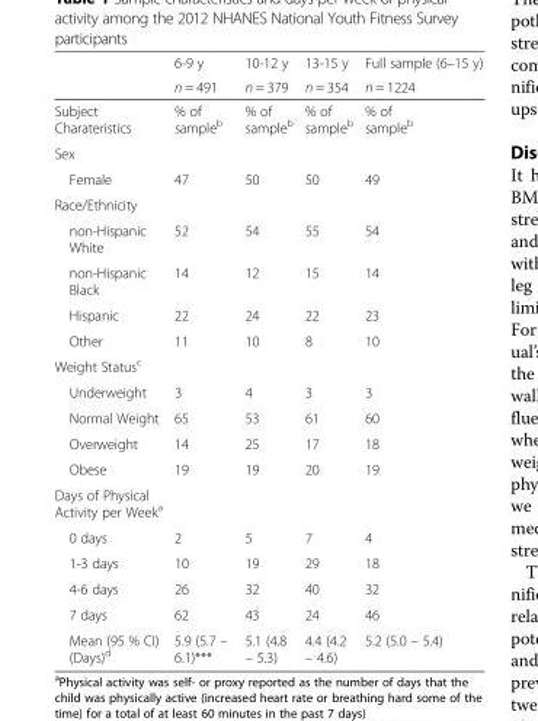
<table><thead><tr><td rowspan="2"></td><td rowspan="2">6-9 y n = 491</td><td rowspan="2">10-12 y n = 379</td><td rowspan="2">13-15 y n = 354</td><td rowspan="2">Full sample (6–15 y) n = 1224</td></tr><tr></tr></thead><tbody><tr><td>Subject Charateristics</td><td>% of sample<sup>b</sup></td><td>% of sample<sup>b</sup></td><td>% of sample<sup>b</sup></td><td>% of sample<sup>b</sup></td></tr><tr><td colspan="5">Sex</td></tr><tr><td>Female</td><td>47</td><td>50</td><td>50</td><td>49</td></tr><tr><td colspan="5">Race/Ethnicity</td></tr><tr><td>non-Hispanic White</td><td>52</td><td>54</td><td>55</td><td>54</td></tr><tr><td>non-Hispanic Black</td><td>14</td><td>12</td><td>15</td><td>14</td></tr><tr><td>Hispanic</td><td>22</td><td>24</td><td>22</td><td>23</td></tr><tr><td>Other</td><td>11</td><td>10</td><td>8</td><td>10</td></tr><tr><td colspan="5">Weight Status<sup>c</sup></td></tr><tr><td>Underweight</td><td>3</td><td>4</td><td>3</td><td>3</td></tr><tr><td>Normal Weight</td><td>65</td><td>53</td><td>61</td><td>60</td></tr><tr><td>Overweight</td><td>14</td><td>25</td><td>17</td><td>18</td></tr><tr><td>Obese</td><td>19</td><td>19</td><td>20</td><td>19</td></tr><tr><td colspan="5">Days of Physical Activity per Week<sup>a</sup></td></tr><tr><td>0 days</td><td>2</td><td>5</td><td>7</td><td>4</td></tr><tr><td>1-3 days</td><td>10</td><td>19</td><td>29</td><td>18</td></tr><tr><td>4-6 days</td><td>26</td><td>32</td><td>40</td><td>32</td></tr><tr><td>7 days</td><td>62</td><td>43</td><td>24</td><td>46</td></tr><tr><td>Mean (95 % CI) (Days)<sup>d</sup></td><td>5.9 (5.7 – 6.1)***</td><td>5.1 (4.8 – 5.3)</td><td>4.4 (4.2 – 4.6)</td><td>5.2 (5.0 – 5.4)</td></tr></tbody></table>